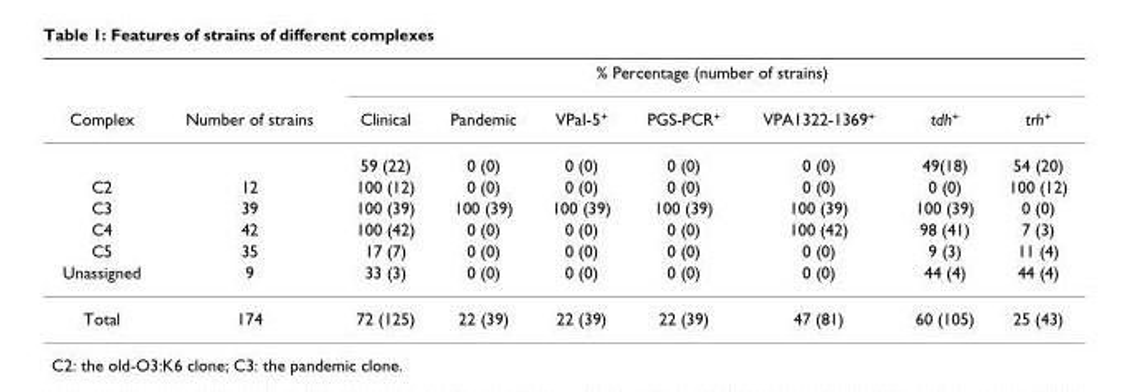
<table><thead><tr><td rowspan="2">Complex</td><td rowspan="2">Number of strains</td><td colspan="7">% Percentage (number of strains)</td></tr><tr><td>Clinical</td><td>Pandemic</td><td>VPaI-5<sup>+</sup></td><td>PGS-PCR<sup>+</sup></td><td>VPA1322-1369<sup>+</sup></td><td>tdh<sup>+</sup></td><td>trh<sup>+</sup></td></tr></thead><tbody><tr><td></td><td></td><td>59 (22)</td><td>0 (0)</td><td>0 (0)</td><td>0 (0)</td><td>0 (0)</td><td>49(18)</td><td>54 (20)</td></tr><tr><td>C2</td><td>12</td><td>100 (12)</td><td>0 (0)</td><td>0 (0)</td><td>0 (0)</td><td>0 (0)</td><td>0 (0)</td><td>100 (12)</td></tr><tr><td>C3</td><td>39</td><td>100 (39)</td><td>100 (39)</td><td>100 (39)</td><td>100 (39)</td><td>100 (39)</td><td>100 (39)</td><td>0 (0)</td></tr><tr><td>C4</td><td>42</td><td>100 (42)</td><td>0 (0)</td><td>0 (0)</td><td>0 (0)</td><td>100 (42)</td><td>98 (41)</td><td>7 (3)</td></tr><tr><td>C5</td><td>35</td><td>17 (7)</td><td>0 (0)</td><td>0 (0)</td><td>0 (0)</td><td>0 (0)</td><td>9 (3)</td><td>11 (4)</td></tr><tr><td>Unassigned</td><td>9</td><td>33 (3)</td><td>0 (0)</td><td>0 (0)</td><td>0 (0)</td><td>0 (0)</td><td>44 (4)</td><td>44 (4)</td></tr><tr><td>Total</td><td>174</td><td>72 (125)</td><td>22 (39)</td><td>22 (39)</td><td>22 (39)</td><td>47 (81)</td><td>60 (105)</td><td>25 (43)</td></tr></tbody></table>